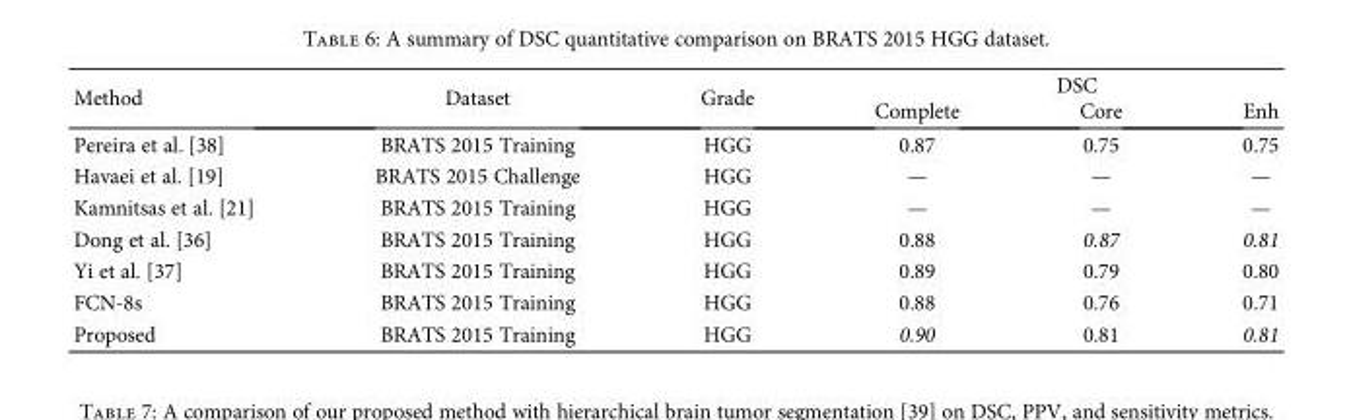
<table><thead><tr><td rowspan="2">Method</td><td rowspan="2">Dataset</td><td rowspan="2">Grade</td><td colspan="3">DSC</td></tr><tr><td>Complete</td><td>Core</td><td>Enh</td></tr></thead><tbody><tr><td>Pereira et al. [38]</td><td>BRATS 2015 Training</td><td>HGG</td><td>0.87</td><td>0.75</td><td>0.75</td></tr><tr><td>Havaei et al. [19]</td><td>BRATS 2015 Challenge</td><td>HGG</td><td>—</td><td>—</td><td>—</td></tr><tr><td>Kamnitsas et al. [21]</td><td>BRATS 2015 Training</td><td>HGG</td><td>—</td><td>—</td><td>—</td></tr><tr><td>Dong et al. [36]</td><td>BRATS 2015 Training</td><td>HGG</td><td>0.88</td><td>0.87</td><td>0.81</td></tr><tr><td>Yi et al. [37]</td><td>BRATS 2015 Training</td><td>HGG</td><td>0.89</td><td>0.79</td><td>0.80</td></tr><tr><td>FCN-8s</td><td>BRATS 2015 Training</td><td>HGG</td><td>0.88</td><td>0.76</td><td>0.71</td></tr><tr><td>Proposed</td><td>BRATS 2015 Training</td><td>HGG</td><td>0.90</td><td>0.81</td><td>0.81</td></tr></tbody></table>